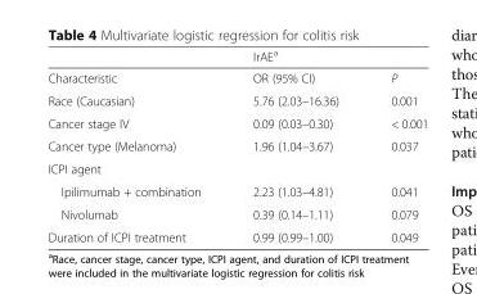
<table><thead><tr><td rowspan="2">Characteristic</td><td colspan="2">IrAE<sup>a</sup></td></tr><tr><td>OR (95% CI)</td><td>P</td></tr></thead><tbody><tr><td>Race (Caucasian)</td><td>5.76 (2.03–16.36)</td><td>0.001</td></tr><tr><td>Cancer stage IV</td><td>0.09 (0.03–0.30)</td><td>&lt; 0.001</td></tr><tr><td>Cancer type (Melanoma)</td><td>1.96 (1.04–3.67)</td><td>0.037</td></tr><tr><td colspan="3">ICPI agent</td></tr><tr><td>Ipilimumab + combination</td><td>2.23 (1.03–4.81)</td><td>0.041</td></tr><tr><td>Nivolumab</td><td>0.39 (0.14–1.11)</td><td>0.079</td></tr><tr><td>Duration of ICPI treatment</td><td>0.99 (0.99–1.00)</td><td>0.049</td></tr></tbody></table>